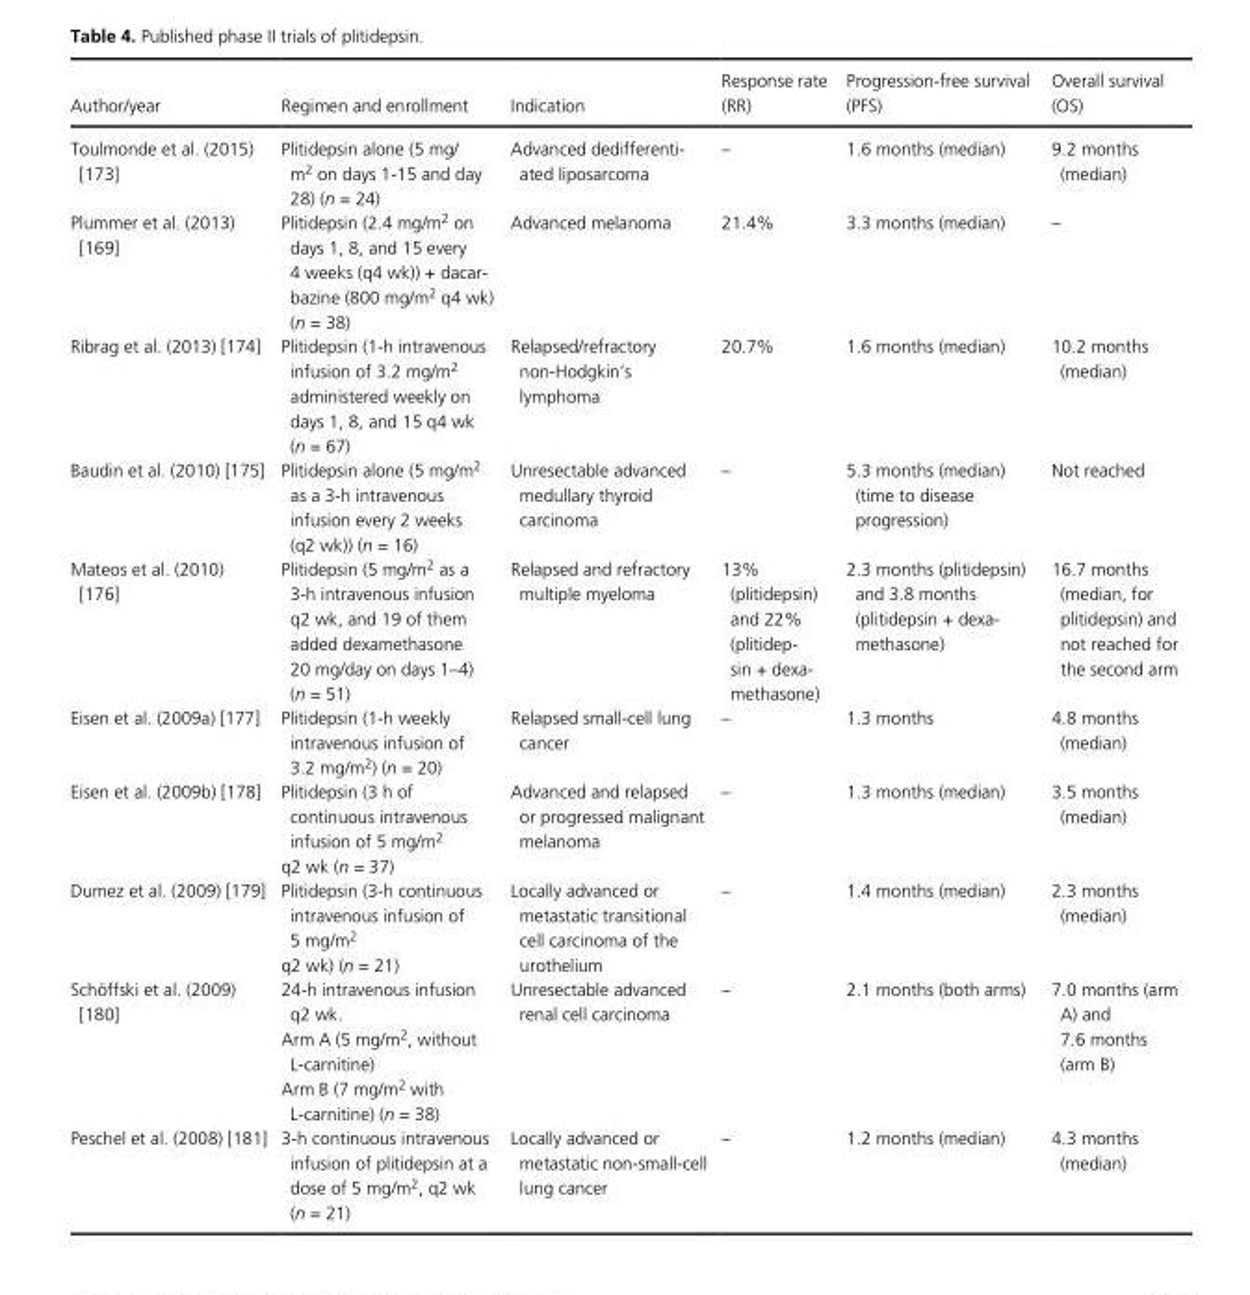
<table><thead><tr><td>Author/year</td><td>Regimen and enrollment</td><td>Indication</td><td>Response rate (RR)</td><td>Progression- free survival (PFS)</td><td>Overall survival (OS)</td></tr></thead><tbody><tr><td>Toulmonde et al. (2015) [173]</td><td>Plitidepsin alone (5 mg/ m<sup>2</sup> on days 1-15 and day 28) (n = 24)</td><td>Advanced dedifferenti- ated liposarcoma</td><td>–</td><td>1.6 months (median)</td><td>9.2 months (median)</td></tr><tr><td>Plummer et al. (2013) [169]</td><td>Plitidepsin (2.4 mg/m2 on days 1, 8, and 15 every 4 weeks (q4 wk)) + dacar- bazine (800 mg/m2 q4 wk) (n = 38)</td><td>Advanced melanoma</td><td>21.4%</td><td>3.3 months (median)</td><td>–</td></tr><tr><td>Ribrag et al. (2013) [174]</td><td>Plitidepsin (1- h intravenous infusion of 3.2 mg/m<sup>2</sup> administered weekly on days 1, 8, and 15 q4 wk (n = 67)</td><td>Relapsed/refractory non- Hodgkin’s lymphoma</td><td>20.7%</td><td>1.6 months (median)</td><td>10.2 months (median)</td></tr><tr><td>Baudin et al. (2010) [175]</td><td>Plitidepsin alone (5 mg/m<sup>2</sup> as a 3- h intravenous infusion every 2 weeks (q2 wk)) (n = 16)</td><td>Unresectable advanced medullary thyroid carcinoma</td><td>–</td><td>5.3 months (median) (time to disease progression)</td><td>Not reached</td></tr><tr><td>Mateos et al. (2010) [176]</td><td>Plitidepsin (5 mg/m<sup>2</sup> as a 3- h intravenous infusion q2 wk, and 19 of them added dexamethasone 20 mg/day on days 1–4) (n = 51)</td><td>Relapsed and refractory multiple myeloma</td><td>13% (plitidepsin) and 22% (plitidep- sin + dexa- methasone)</td><td>2.3 months (plitidepsin) and 3.8 months (plitidepsin + dexa- methasone)</td><td>16.7 months (median, for plitidepsin) and not reached for the second arm</td></tr><tr><td>Eisen et al. (2009a) [177]</td><td>Plitidepsin (1- h weekly intravenous infusion of 3.2 mg/m<sup>2</sup>) (n = 20)</td><td>Relapsed small- cell lung cancer</td><td>–</td><td>1.3 months</td><td>4.8 months (median)</td></tr><tr><td>Eisen et al. (2009b) [178]</td><td>Plitidepsin (3 h of continuous intravenous infusion of 5 mg/m<sup>2</sup> q2 wk (n = 37)</td><td>Advanced and relapsed or progressed malignant melanoma</td><td>–</td><td>1.3 months (median)</td><td>3.5 months (median)</td></tr><tr><td>Dumez et al. (2009) [179]</td><td>Plitidepsin (3- h continuous intravenous infusion of 5 mg/m<sup>2</sup> q2 wk) (n = 21)</td><td>Locally advanced or metastatic transitional cell carcinoma of the urothelium</td><td>–</td><td>1.4 months (median)</td><td>2.3 months (median)</td></tr><tr><td>Schöffski et al. (2009) [180]</td><td>24- h intravenous infusion q2 wk. Arm A (5 mg/m<sup>2</sup>, without L- carnitine) Arm B (7 mg/m<sup>2</sup> with L- carnitine) (n = 38)</td><td>Unresectable advanced renal cell carcinoma</td><td>–</td><td>2.1 months (both arms)</td><td>7.0 months (arm A) and 7.6 months (arm B)</td></tr><tr><td>Peschel et al. (2008) [181]</td><td>3- h continuous intravenous infusion of plitidepsin at a dose of 5 mg/m<sup>2</sup>, q2 wk (n = 21)</td><td>Locally advanced or metastatic non- small- cell lung cancer</td><td>–</td><td>1.2 months (median)</td><td>4.3 months (median)</td></tr></tbody></table>